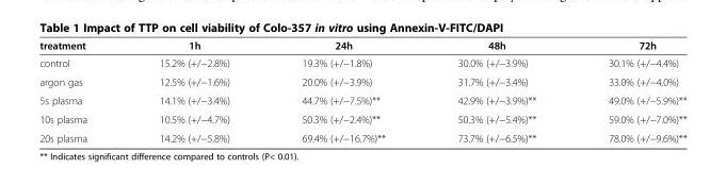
<table><thead><tr><td>treatment</td><td>1h</td><td>24h</td><td>48h</td><td>72h</td></tr></thead><tbody><tr><td>control</td><td>15.2% (+/−2.8%)</td><td>19.3% (+/−1.8%)</td><td>30.0% (+/−3.9%)</td><td>30.1% (+/−4.4%)</td></tr><tr><td>argon gas</td><td>12.5% (+/−1.6%)</td><td>20.0% (+/−3.9%)</td><td>31.7% (+/−3.4%)</td><td>33.0% (+/−4.0%)</td></tr><tr><td>5s plasma</td><td>14.1% (+/−3.4%)</td><td>44.7% (+/−7.5%)**</td><td>42.9% (+/−3.9%)**</td><td>49.0% (+/−5.9%)**</td></tr><tr><td>10s plasma</td><td>10.5% (+/−4.7%)</td><td>50.3% (+/−2.4%)**</td><td>50.3% (+/−5.4%)**</td><td>59.0% (+/−7.0%)**</td></tr><tr><td>20s plasma</td><td>14.2% (+/−5.8%)</td><td>69.4% (+/−16.7%)**</td><td>73.7% (+/−6.5%)**</td><td>78.0% (+/−9.6%)**</td></tr></tbody></table>